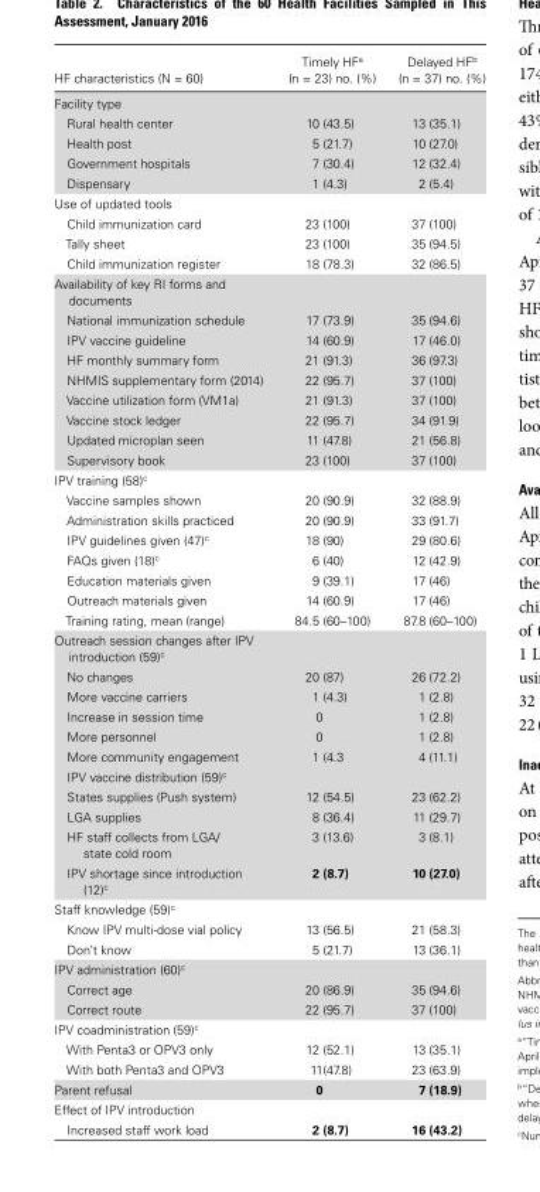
<table><thead><tr><td>HF characteristics (N = 60)</td><td>Timely HF<sup>a</sup> (n = 23) no. (%)</td><td>Delayed HF<sup>b</sup> (n = 37) no. (%)</td></tr></thead><tbody><tr><td colspan="3">Facility type</td></tr><tr><td>Rural health center</td><td>10 (43.5)</td><td>13 (35.1)</td></tr><tr><td>Health post</td><td>5 (21.7)</td><td>10 (27.0)</td></tr><tr><td>Government hospitals</td><td>7 (30.4)</td><td>12 (32.4)</td></tr><tr><td>Dispensary</td><td>1 (4.3)</td><td>2 (5.4)</td></tr><tr><td colspan="3">Use of updated tools</td></tr><tr><td>Child immunization card</td><td>23 (100)</td><td>37 (100)</td></tr><tr><td>Tally sheet</td><td>23 (100)</td><td>35 (94.5)</td></tr><tr><td>Child immunization register</td><td>18 (78.3)</td><td>32 (86.5)</td></tr><tr><td colspan="3">Availability of key RI forms and documents</td></tr><tr><td>National immunization schedule</td><td>17 (73.9)</td><td>35 (94.6)</td></tr><tr><td>IPV vaccine guideline</td><td>14 (60.9)</td><td>17 (46.0)</td></tr><tr><td>HF monthly summary form</td><td>21 (91.3)</td><td>36 (97.3)</td></tr><tr><td>NHMIS supplementary form (2014)</td><td>22 (95.7)</td><td>37 (100)</td></tr><tr><td>Vaccine utilization form (VM1a)</td><td>21 (91.3)</td><td>37 (100)</td></tr><tr><td>Vaccine stock ledger</td><td>22 (95.7)</td><td>34 (91.9)</td></tr><tr><td>Updated microplan seen</td><td>11 (47.8)</td><td>21 (56.8)</td></tr><tr><td>Supervisory book</td><td>23 (100)</td><td>37 (100)</td></tr><tr><td colspan="3">IPV training (58)<sup>c</sup></td></tr><tr><td>Vaccine samples shown</td><td>20 (90.9)</td><td>32 (88.9)</td></tr><tr><td>Administration skills practiced</td><td>20 (90.9)</td><td>33 (91.7)</td></tr><tr><td>IPV guidelines given (47)<sup>c</sup></td><td>18 (90)</td><td>29 (80.6)</td></tr><tr><td>FAQs given (18)<sup>c</sup></td><td>6 (40)</td><td>12 (42.9)</td></tr><tr><td>Education materials given</td><td>9 (39.1)</td><td>17 (46)</td></tr><tr><td>Outreach materials given</td><td>14 (60.9)</td><td>17 (46)</td></tr><tr><td>Training rating, mean (range)</td><td>84.5 (60–100)</td><td>87.8 (60–100)</td></tr><tr><td colspan="3">Outreach session changes after IPV introduction (59)<sup>c</sup></td></tr><tr><td>No changes</td><td>20 (87)</td><td>26 (72.2)</td></tr><tr><td>More vaccine carriers</td><td>1 (4.3)</td><td>1 (2.8)</td></tr><tr><td>Increase in session time</td><td>0</td><td>1 (2.8)</td></tr><tr><td>More personnel</td><td>0</td><td>1 (2.8)</td></tr><tr><td>More community engagement</td><td>1 (4.3</td><td>4 (11.1)</td></tr><tr><td colspan="3">IPV vaccine distribution (59)<sup>c</sup></td></tr><tr><td>States supplies (Push system)</td><td>12 (54.5)</td><td>23 (62.2)</td></tr><tr><td>LGA supplies</td><td>8 (36.4)</td><td>11 (29.7)</td></tr><tr><td>HF staff collects from LGA/ state cold room</td><td>3 (13.6)</td><td>3 (8.1)</td></tr><tr><td>IPV shortage since introduction (12)<sup>c</sup></td><td>2 (8.7)</td><td>10 (27.0)</td></tr><tr><td colspan="3">Staff knowledge (59)<sup>c</sup></td></tr><tr><td>Know IPV multi-dose vial policy</td><td>13 (56.5)</td><td>21 (58.3)</td></tr><tr><td>Don’t know</td><td>5 (21.7)</td><td>13 (36.1)</td></tr><tr><td colspan="3">IPV administration (60)<sup>c</sup></td></tr><tr><td>Correct age</td><td>20 (86.9)</td><td>35 (94.6)</td></tr><tr><td>Correct route</td><td>22 (95.7)</td><td>37 (100)</td></tr><tr><td colspan="3">IPV coadministration (59)<sup>c</sup></td></tr><tr><td>With Penta3 or OPV3 only</td><td>12 (52.1)</td><td>13 (35.1)</td></tr><tr><td>With both Penta3 and OPV3</td><td>11(47.8)</td><td>23 (63.9)</td></tr><tr><td>Parent refusal</td><td>0</td><td>7 (18.9)</td></tr><tr><td colspan="3">Effect of IPV introduction</td></tr><tr><td>Increased staff work load</td><td>2 (8.7)</td><td>16 (43.2)</td></tr></tbody></table>